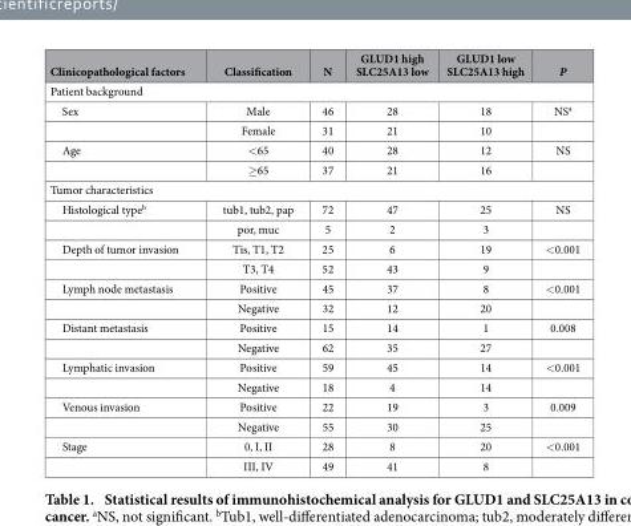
<table><thead><tr><td>Clinicopathological factors</td><td>Classification</td><td>N</td><td>GLUD1 high SLC25A13 low</td><td>GLUD1 low SLC25A13 high</td><td>P</td></tr></thead><tbody><tr><td colspan="6">Patient background</td></tr><tr><td rowspan="2">Sex</td><td>Male</td><td>46</td><td>28</td><td>18</td><td>NS<sup>a</sup></td></tr><tr><td>Female</td><td>31</td><td>21</td><td>10</td><td></td></tr><tr><td rowspan="2">Age</td><td>&lt; 65</td><td>40</td><td>28</td><td>12</td><td>NS</td></tr><tr><td>≥ 65</td><td>37</td><td>21</td><td>16</td><td></td></tr><tr><td colspan="6">Tumor characteristics</td></tr><tr><td rowspan="2">Histological type<sup>b</sup></td><td>tub1, tub2, pap</td><td>72</td><td>47</td><td>25</td><td>NS</td></tr><tr><td>por, muc</td><td>5</td><td>2</td><td>3</td><td></td></tr><tr><td rowspan="2">Depth of tumor invasion</td><td>Tis, T1, T2</td><td>25</td><td>6</td><td>19</td><td>&lt; 0.001</td></tr><tr><td>T3, T4</td><td>52</td><td>43</td><td>9</td><td></td></tr><tr><td rowspan="2">Lymph node metastasis</td><td>Positive</td><td>45</td><td>37</td><td>8</td><td>&lt; 0.001</td></tr><tr><td>Negative</td><td>32</td><td>12</td><td>20</td><td></td></tr><tr><td rowspan="2">Distant metastasis</td><td>Positive</td><td>15</td><td>14</td><td>1</td><td>0.008</td></tr><tr><td>Negative</td><td>62</td><td>35</td><td>27</td><td></td></tr><tr><td rowspan="2">Lymphatic invasion</td><td>Positive</td><td>59</td><td>45</td><td>14</td><td>&lt; 0.001</td></tr><tr><td>Negative</td><td>18</td><td>4</td><td>14</td><td></td></tr><tr><td rowspan="2">Venous invasion</td><td>Positive</td><td>22</td><td>19</td><td>3</td><td>0.009</td></tr><tr><td>Negative</td><td>55</td><td>30</td><td>25</td><td></td></tr><tr><td rowspan="2">Stage</td><td>0, I, II</td><td>28</td><td>8</td><td>20</td><td>&lt; 0.001</td></tr><tr><td>III, IV</td><td>49</td><td>41</td><td>8</td><td></td></tr></tbody></table>